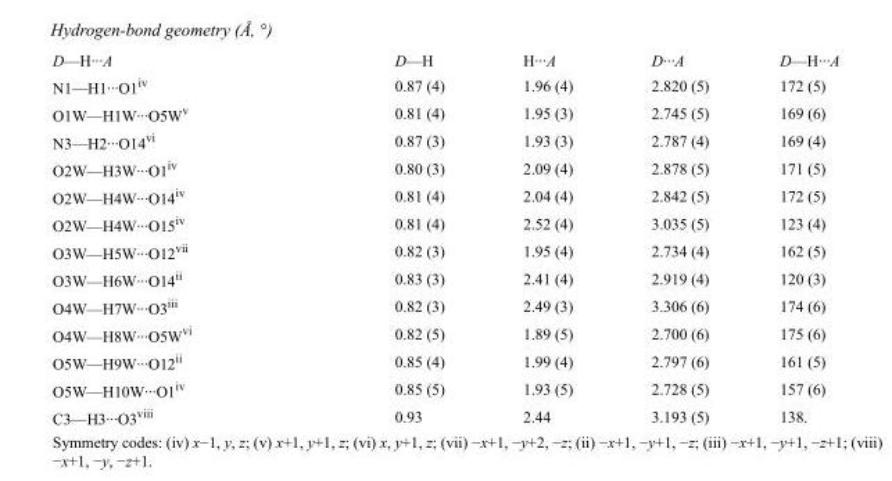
<table><tbody><tr><td>D—H···A</td><td>D—H</td><td>H···A</td><td>D···A</td><td>D—H···A</td></tr><tr><td>N1—H1···O1<sup>iv</sup></td><td>0.87 (4)</td><td>1.96 (4)</td><td>2.820 (5)</td><td>172 (5)</td></tr><tr><td>O1W—H1W···O5W<sup>v</sup></td><td>0.81 (4)</td><td>1.95 (3)</td><td>2.745 (5)</td><td>169 (6)</td></tr><tr><td>N3—H2···O14<sup>vi</sup></td><td>0.87 (3)</td><td>1.93 (3)</td><td>2.787 (4)</td><td>169 (4)</td></tr><tr><td>O2W—H3W···O1<sup>iv</sup></td><td>0.80 (3)</td><td>2.09 (4)</td><td>2.878 (5)</td><td>171 (5)</td></tr><tr><td>O2W—H4W···O14<sup>iv</sup></td><td>0.81 (4)</td><td>2.04 (4)</td><td>2.842 (5)</td><td>172 (5)</td></tr><tr><td>O2W—H4W···O15<sup>iv</sup></td><td>0.81 (4)</td><td>2.52 (4)</td><td>3.035 (5)</td><td>123 (4)</td></tr><tr><td>O3W—H5W···O12<sup>vii</sup></td><td>0.82 (3)</td><td>1.95 (4)</td><td>2.734 (4)</td><td>162 (5)</td></tr><tr><td>O3W—H6W···O14<sup>ii</sup></td><td>0.83 (3)</td><td>2.41 (4)</td><td>2.919 (4)</td><td>120 (3)</td></tr><tr><td>O4W—H7W···O3<sup>iii</sup></td><td>0.82 (3)</td><td>2.49 (3)</td><td>3.306 (6)</td><td>174 (6)</td></tr><tr><td>O4W—H8W···O5W<sup>vi</sup></td><td>0.82 (5)</td><td>1.89 (5)</td><td>2.700 (6)</td><td>175 (6)</td></tr><tr><td>O5W—H9W···O12<sup>ii</sup></td><td>0.85 (4)</td><td>1.99 (4)</td><td>2.797 (6)</td><td>161 (5)</td></tr><tr><td>O5W—H10W···O1<sup>iv</sup></td><td>0.85 (5)</td><td>1.93 (5)</td><td>2.728 (5)</td><td>157 (6)</td></tr><tr><td>C3—H3···O3<sup>viii</sup></td><td>0.93</td><td>2.44</td><td>3.193 (5)</td><td>138.</td></tr></tbody></table>